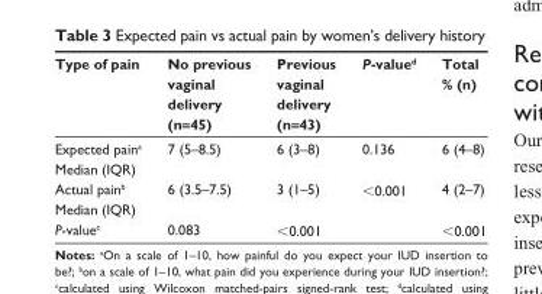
<table><thead><tr><td>Type of pain</td><td>No previous vaginal delivery (n=45)</td><td>Previous vaginal delivery (n=43)</td><td>P-value<sup>d</sup></td><td>Total % (n)</td></tr></thead><tbody><tr><td>expected pain<sup>a</sup> Median (iQr)</td><td>7 (5–8.5)</td><td>6 (3–8)</td><td>0.136</td><td>6 (4–8)</td></tr><tr><td>Actual pain<sup>b</sup> Median (iQr)</td><td>6 (3.5–7.5)</td><td>3 (1–5)</td><td>&lt;0.001</td><td>4 (2–7)</td></tr><tr><td>P-value<sup>c</sup></td><td>0.083</td><td>&lt;0.001</td><td></td><td>&lt;0.001</td></tr></tbody></table>